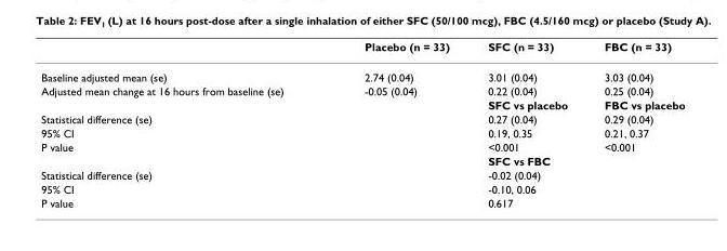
<table><thead><tr><td></td><td>Placebo (n = 33)</td><td>SFC (n = 33)</td><td>FBC (n = 33)</td></tr></thead><tbody><tr><td>Baseline adjusted mean (se)</td><td>2.74 (0.04)</td><td>3.01 (0.04)</td><td>3.03 (0.04)</td></tr><tr><td rowspan="2">Adjusted mean change at 16 hours from baseline (se)</td><td>-0.05 (0.04)</td><td>0.22 (0.04)</td><td>0.25 (0.04)</td></tr><tr><td></td><td>SFC vs placebo</td><td>FBC vs placebo</td></tr><tr><td>Statistical difference (se)</td><td></td><td>0.27 (0.04)</td><td>0.29 (0.04)</td></tr><tr><td>95% CI</td><td></td><td>0.19, 0.35</td><td>0.21, 0.37</td></tr><tr><td rowspan="2">P value</td><td></td><td>&lt;0.001</td><td>&lt;0.001</td></tr><tr><td></td><td>SFC vs FBC</td><td></td></tr><tr><td>Statistical difference (se)</td><td></td><td>-0.02 (0.04)</td><td></td></tr><tr><td>95% CI</td><td></td><td>-0.10, 0.06</td><td></td></tr><tr><td>P value</td><td></td><td>0.617</td><td></td></tr></tbody></table>